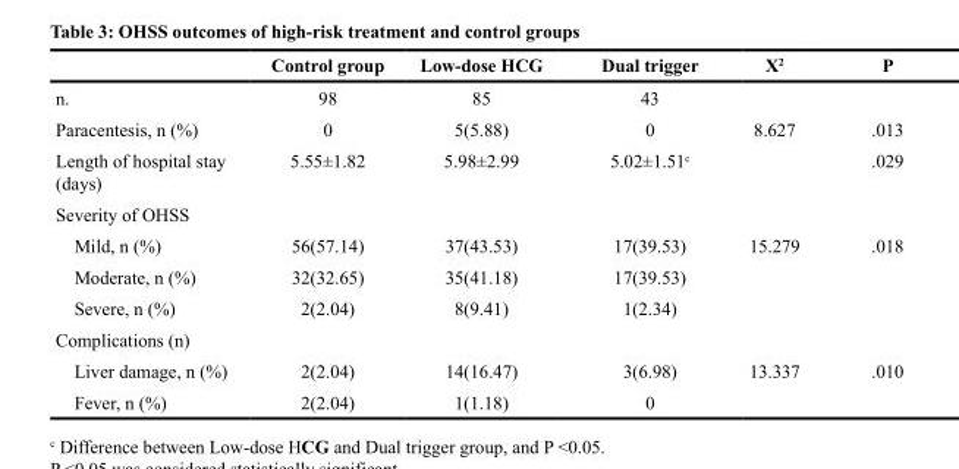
<table><thead><tr><td></td><td>Control group</td><td>Low-dose HCG</td><td>Dual trigger</td><td>X<sup>2</sup></td><td>P</td></tr></thead><tbody><tr><td>n.</td><td>98</td><td>85</td><td>43</td><td></td><td></td></tr><tr><td>Paracentesis, n (%)</td><td>0</td><td>5(5.88)</td><td>0</td><td>8.627</td><td>.013</td></tr><tr><td>Length of hospital stay (days)</td><td>5.55±1.82</td><td>5.98±2.99</td><td>5.02±1.51<sup>c</sup></td><td></td><td>.029</td></tr><tr><td colspan="6">Severity of OHSS</td></tr><tr><td>Mild, n (%)</td><td>56(57.14)</td><td>37(43.53)</td><td>17(39.53)</td><td>15.279</td><td>.018</td></tr><tr><td>Moderate, n (%)</td><td>32(32.65)</td><td>35(41.18)</td><td>17(39.53)</td><td colspan="2"></td></tr><tr><td>Severe, n (%)</td><td>2(2.04)</td><td>8(9.41)</td><td>1(2.34)</td><td colspan="2"></td></tr><tr><td colspan="6">Complications (n)</td></tr><tr><td>Liver damage, n (%)</td><td>2(2.04)</td><td>14(16.47)</td><td>3(6.98)</td><td>13.337</td><td>.010</td></tr><tr><td>Fever, n (%)</td><td>2(2.04)</td><td>1(1.18)</td><td>0</td><td colspan="2"></td></tr></tbody></table>